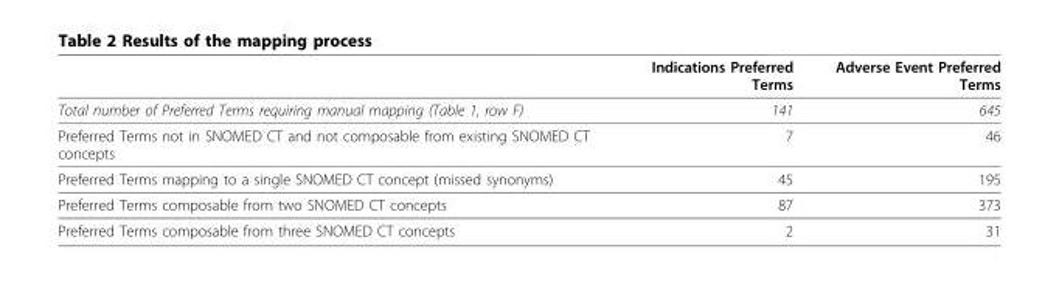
<table><thead><tr><td></td><td>Indications Preferred Terms</td><td>Adverse Event Preferred Terms</td></tr></thead><tbody><tr><td>Total number of Preferred Terms requiring manual mapping (Table 1, row F)</td><td>141</td><td>645</td></tr><tr><td>Preferred Terms not in SNOMED CT and not composable from existing SNOMED CT concepts</td><td>7</td><td>46</td></tr><tr><td>Preferred Terms mapping to a single SNOMED CT concept (missed synonyms)</td><td>45</td><td>195</td></tr><tr><td>Preferred Terms composable from two SNOMED CT concepts</td><td>87</td><td>373</td></tr><tr><td>Preferred Terms composable from three SNOMED CT concepts</td><td>2</td><td>31</td></tr></tbody></table>